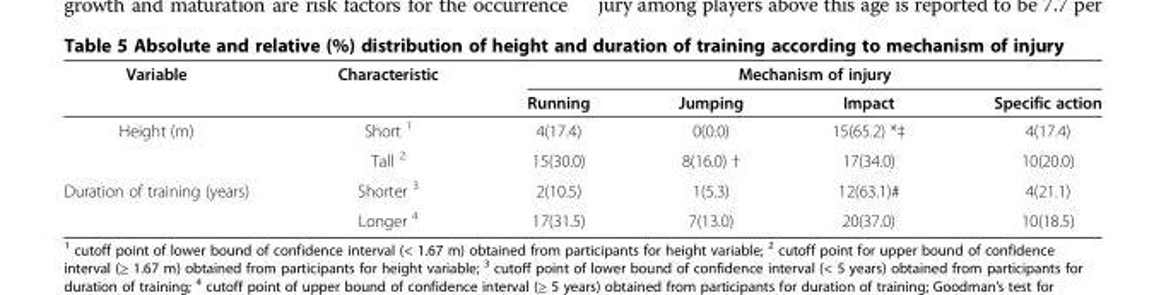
<table><thead><tr><td rowspan="2">Variable</td><td rowspan="2">Characteristic</td><td colspan="4">Mechanism of injury</td></tr><tr><td>Running</td><td>Jumping</td><td>Impact</td><td>Specific action</td></tr></thead><tbody><tr><td rowspan="2">Height (m)</td><td>Short <sup>1</sup></td><td>4(17.4)</td><td>0(0.0)</td><td>15(65.2) *‡</td><td>4(17.4)</td></tr><tr><td>Tall <sup>2</sup></td><td>15(30.0)</td><td>8(16.0) †</td><td>17(34.0)</td><td>10(20.0)</td></tr><tr><td rowspan="2">Duration of training (years)</td><td>Shorter <sup>3</sup></td><td>2(10.5)</td><td>1(5.3)</td><td>12(63.1)#</td><td>4(21.1)</td></tr><tr><td>Longer <sup>4</sup></td><td>17(31.5)</td><td>7(13.0)</td><td>20(37.0)</td><td>10(18.5)</td></tr></tbody></table>